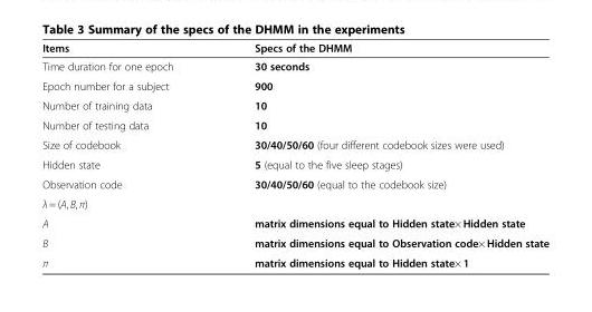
<table><thead><tr><td>Items</td><td>Specs of the DHMM</td></tr></thead><tbody><tr><td>Time duration for one epoch</td><td>30 seconds</td></tr><tr><td>Epoch number for a subject</td><td>900</td></tr><tr><td>Number of training data</td><td>10</td></tr><tr><td>Number of testing data</td><td>10</td></tr><tr><td>Size of codebook</td><td>30/40/50/60 (four different codebook sizes were used)</td></tr><tr><td>Hidden state</td><td>5 (equal to the five sleep stages)</td></tr><tr><td>Observation code</td><td>30/40/50/60 (equal to the codebook size)</td></tr><tr><td colspan="2">λ = (A, B, π)</td></tr><tr><td>A</td><td>matrix dimensions equal to Hidden state× Hidden state</td></tr><tr><td>B</td><td>matrix dimensions equal to Observation code× Hidden state</td></tr><tr><td>π</td><td>matrix dimensions equal to Hidden state× 1</td></tr></tbody></table>